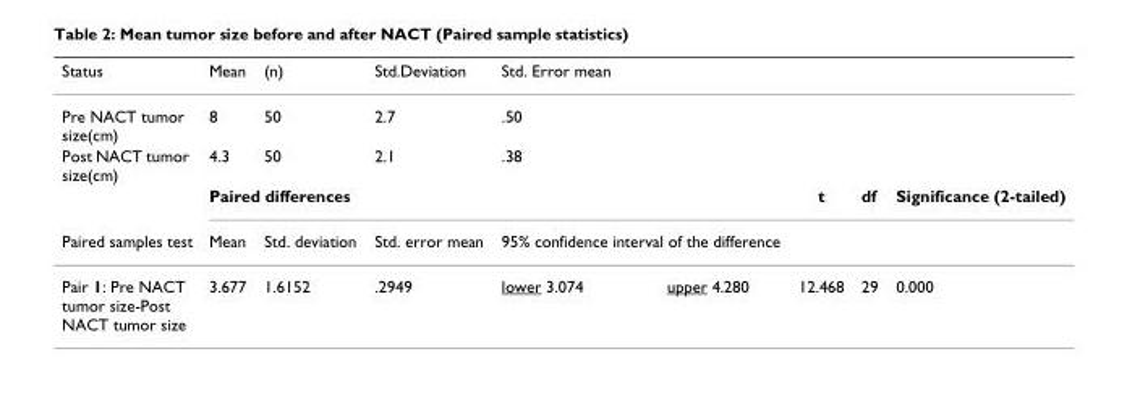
<table><thead><tr><td>Status</td><td>Mean</td><td>(n)</td><td>Std.Deviation</td><td>Std. Error mean</td><td></td><td></td><td></td><td></td></tr></thead><tbody><tr><td>Pre NACT tumor size(cm)</td><td>8</td><td>50</td><td>2.7</td><td>.50</td><td></td><td></td><td></td><td></td></tr><tr><td rowspan="2">Post NACT tumor size(cm)</td><td>4.3</td><td>50</td><td>2.1</td><td>.38</td><td></td><td></td><td></td><td></td></tr><tr><td colspan="5">Paired differences</td><td>t</td><td>df</td><td>Significance (2-tailed)</td></tr><tr><td>Paired samples test</td><td>Mean</td><td>Std. deviation</td><td>Std. error mean</td><td colspan="2">95% confidence interval of the difference</td><td></td><td></td><td></td></tr><tr><td>Pair 1: Pre NACT tumor size-Post NACT tumor size</td><td>3.677</td><td>1.6152</td><td>.2949</td><td>lower 3.074</td><td>upper 4.280</td><td>12.468</td><td>29</td><td>0.000</td></tr></tbody></table>